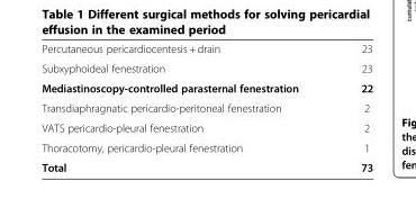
<table><tbody><tr><td>Percutaneous pericardiocentesis + drain</td><td>23</td></tr><tr><td>Subxyphoideal fenestration</td><td>23</td></tr><tr><td>Mediastinoscopy-controlled parasternal fenestration</td><td>22</td></tr><tr><td>Transdiaphragnatic pericardio-peritoneal fenestration</td><td>2</td></tr><tr><td>VATS pericardio-pleural fenestration</td><td>2</td></tr><tr><td>Thoracotomy, pericardio-pleural fenestration</td><td>1</td></tr><tr><td>Total</td><td>73</td></tr></tbody></table>